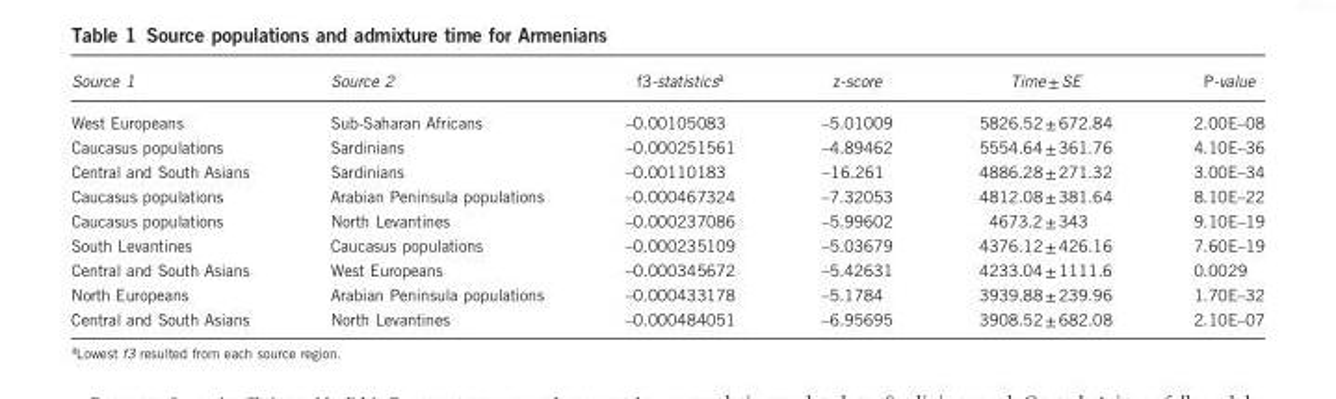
<table><thead><tr><td>Source 1</td><td>Source 2</td><td>f3-statistics<sup>a</sup></td><td>z-score</td><td>Time± SE</td><td>P-value</td></tr></thead><tbody><tr><td>West Europeans</td><td>Sub-Saharan Africans</td><td>–0.00105083</td><td>–5.01009</td><td>5826.52± 672.84</td><td>2.00E–08</td></tr><tr><td>Caucasus populations</td><td>Sardinians</td><td>–0.000251561</td><td>–4.89462</td><td>5554.64± 361.76</td><td>4.10E–36</td></tr><tr><td>Central and South Asians</td><td>Sardinians</td><td>–0.00110183</td><td>–16.261</td><td>4886.28± 271.32</td><td>3.00E–34</td></tr><tr><td>Caucasus populations</td><td>Arabian Peninsula populations</td><td>–0.000467324</td><td>–7.32053</td><td>4812.08± 381.64</td><td>8.10E–22</td></tr><tr><td>Caucasus populations</td><td>North Levantines</td><td>–0.000237086</td><td>–5.99602</td><td>4673.2± 343</td><td>9.10E–19</td></tr><tr><td>South Levantines</td><td>Caucasus populations</td><td>–0.000235109</td><td>–5.03679</td><td>4376.12± 426.16</td><td>7.60E–19</td></tr><tr><td>Central and South Asians</td><td>West Europeans</td><td>–0.000345672</td><td>–5.42631</td><td>4233.04± 1111.6</td><td>0.0029</td></tr><tr><td>North Europeans</td><td>Arabian Peninsula populations</td><td>–0.000433178</td><td>–5.1784</td><td>3939.88± 239.96</td><td>1.70E–32</td></tr><tr><td>Central and South Asians</td><td>North Levantines</td><td>–0.000484051</td><td>–6.95695</td><td>3908.52± 682.08</td><td>2.10E–07</td></tr></tbody></table>